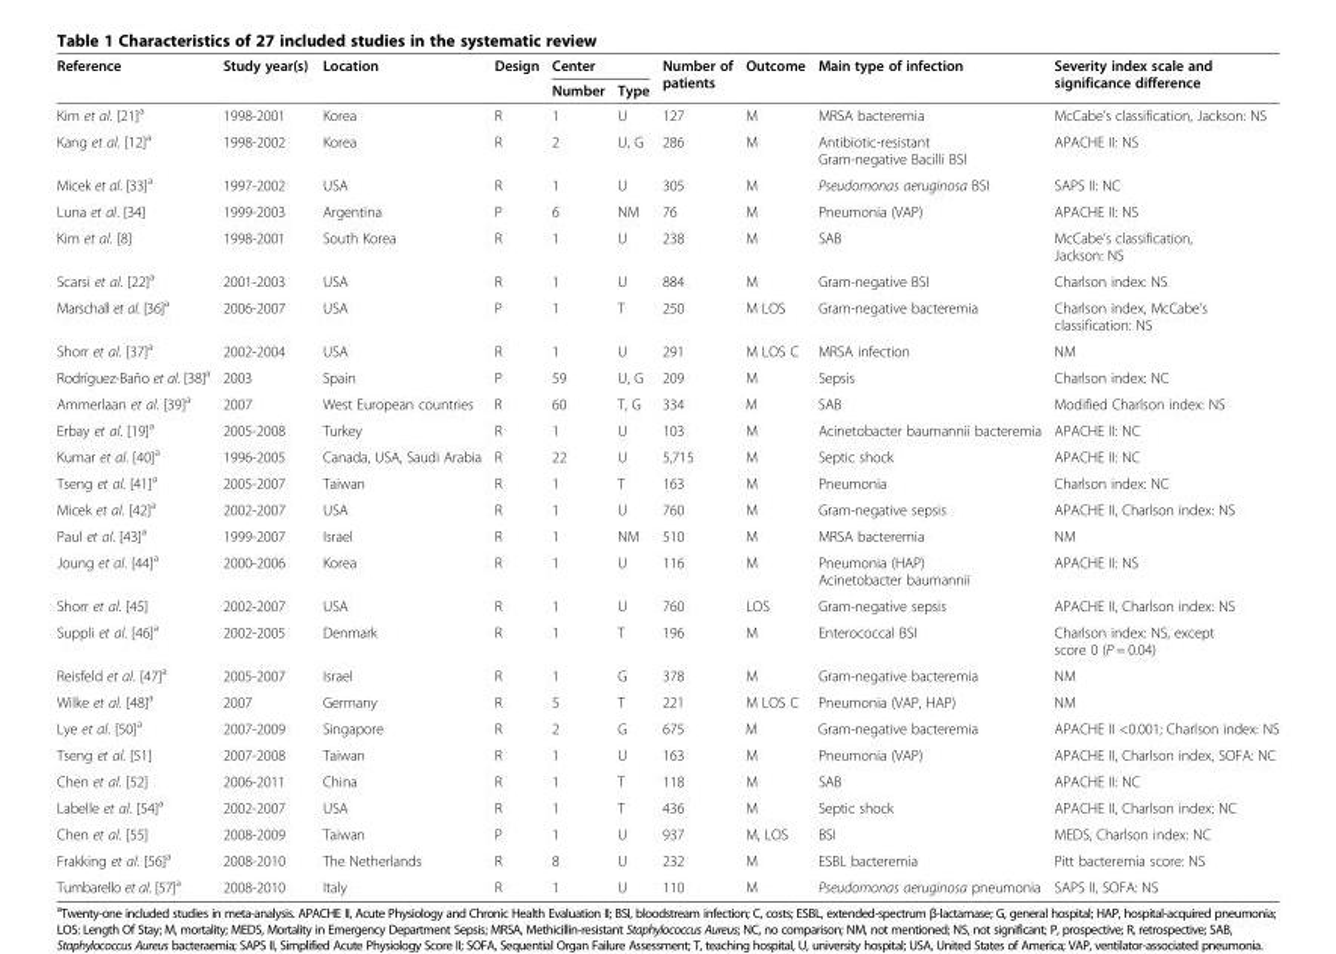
<table><thead><tr><td rowspan="2">Reference</td><td rowspan="2">Study year(s)</td><td rowspan="2">Location</td><td rowspan="2">Design</td><td colspan="2">Center</td><td rowspan="2">Number of patients</td><td rowspan="2">Outcome</td><td rowspan="2">Main type of infection</td><td rowspan="2">Severity index scale and significance difference</td></tr><tr><td>Number</td><td>Type</td></tr></thead><tbody><tr><td>Kim et al. [21]<sup>a</sup></td><td>1998-2001</td><td>Korea</td><td>R</td><td>1</td><td>U</td><td>127</td><td>M</td><td>MRSA bacteremia</td><td>McCabe’s classification, Jackson: NS</td></tr><tr><td>Kang et al. [12]<sup>a</sup></td><td>1998-2002</td><td>Korea</td><td>R</td><td>2</td><td>U, G</td><td>286</td><td>M</td><td>Antibiotic-resistant Gram-negative Bacilli BSI</td><td>APACHE II: NS</td></tr><tr><td>Micek et al. [33]<sup>a</sup></td><td>1997-2002</td><td>USA</td><td>R</td><td>1</td><td>U</td><td>305</td><td>M</td><td>Pseudomonas aeruginosa BSI</td><td>SAPS II: NC</td></tr><tr><td>Luna et al. [34]</td><td>1999-2003</td><td>Argentina</td><td>P</td><td>6</td><td>NM</td><td>76</td><td>M</td><td>Pneumonia (VAP)</td><td>APACHE II: NS</td></tr><tr><td>Kim et al. [8]</td><td>1998-2001</td><td>South Korea</td><td>R</td><td>1</td><td>U</td><td>238</td><td>M</td><td>SAB</td><td>McCabe’s classification, Jackson: NS</td></tr><tr><td>Scarsi et al. [22]<sup>a</sup></td><td>2001-2003</td><td>USA</td><td>R</td><td>1</td><td>U</td><td>884</td><td>M</td><td>Gram-negative BSI</td><td>Charlson index: NS</td></tr><tr><td>Marschall et al. [36]<sup>a</sup></td><td>2006-2007</td><td>USA</td><td>P</td><td>1</td><td>T</td><td>250</td><td>M LOS</td><td>Gram-negative bacteremia</td><td>Charlson index, McCabe’s classification: NS</td></tr><tr><td>Shorr et al. [37]<sup>a</sup></td><td>2002-2004</td><td>USA</td><td>R</td><td>1</td><td>U</td><td>291</td><td>M LOS C</td><td>MRSA infection</td><td>NM</td></tr><tr><td>Rodríguez-Baño et al. [38]<sup>a</sup></td><td>2003</td><td>Spain</td><td>P</td><td>59</td><td>U, G</td><td>209</td><td>M</td><td>Sepsis</td><td>Charlson index: NC</td></tr><tr><td>Ammerlaan et al. [39]<sup>a</sup></td><td>2007</td><td>West European countries</td><td>R</td><td>60</td><td>T, G</td><td>334</td><td>M</td><td>SAB</td><td>Modified Charlson index: NS</td></tr><tr><td>Erbay et al. [19]<sup>a</sup></td><td>2005-2008</td><td>Turkey</td><td>R</td><td>1</td><td>U</td><td>103</td><td>M</td><td>Acinetobacter baumannii bacteremia</td><td>APACHE II: NC</td></tr><tr><td>Kumar et al. [40]<sup>a</sup></td><td>1996-2005</td><td>Canada, USA, Saudi Arabia</td><td>R</td><td>22</td><td>U</td><td>5,715</td><td>M</td><td>Septic shock</td><td>APACHE II: NC</td></tr><tr><td>Tseng et al. [41]<sup>a</sup></td><td>2005-2007</td><td>Taiwan</td><td>R</td><td>1</td><td>T</td><td>163</td><td>M</td><td>Pneumonia</td><td>Charlson index: NC</td></tr><tr><td>Micek et al. [42]<sup>a</sup></td><td>2002-2007</td><td>USA</td><td>R</td><td>1</td><td>U</td><td>760</td><td>M</td><td>Gram-negative sepsis</td><td>APACHE II, Charlson index: NS</td></tr><tr><td>Paul et al. [43]<sup>a</sup></td><td>1999-2007</td><td>Israel</td><td>R</td><td>1</td><td>NM</td><td>510</td><td>M</td><td>MRSA bacteremia</td><td>NM</td></tr><tr><td>Joung et al. [44]<sup>a</sup></td><td>2000-2006</td><td>Korea</td><td>R</td><td>1</td><td>U</td><td>116</td><td>M</td><td>Pneumonia (HAP) Acinetobacter baumannii</td><td>APACHE II: NS</td></tr><tr><td>Shorr et al. [45]</td><td>2002-2007</td><td>USA</td><td>R</td><td>1</td><td>U</td><td>760</td><td>LOS</td><td>Gram-negative sepsis</td><td>APACHE II, Charlson index: NS</td></tr><tr><td>Suppli et al. [46]<sup>a</sup></td><td>2002-2005</td><td>Denmark</td><td>R</td><td>1</td><td>T</td><td>196</td><td>M</td><td>Enterococcal BSI</td><td>Charlson index: NS, except score 0 (P = 0.04)</td></tr><tr><td>Reisfeld et al. [47]<sup>a</sup></td><td>2005-2007</td><td>Israel</td><td>R</td><td>1</td><td>G</td><td>378</td><td>M</td><td>Gram-negative bacteremia</td><td>NM</td></tr><tr><td>Wilke et al. [48]<sup>a</sup></td><td>2007</td><td>Germany</td><td>R</td><td>5</td><td>T</td><td>221</td><td>M LOS C</td><td>Pneumonia (VAP, HAP)</td><td>NM</td></tr><tr><td>Lye et al. [50]<sup>a</sup></td><td>2007-2009</td><td>Singapore</td><td>R</td><td>2</td><td>G</td><td>675</td><td>M</td><td>Gram-negative bacteremia</td><td>APACHE II &lt;0.001; Charlson index: NS</td></tr><tr><td>Tseng et al. [51]</td><td>2007-2008</td><td>Taiwan</td><td>R</td><td>1</td><td>U</td><td>163</td><td>M</td><td>Pneumonia (VAP)</td><td>APACHE II, Charlson index, SOFA: NC</td></tr><tr><td>Chen et al. [52]</td><td>2006-2011</td><td>China</td><td>R</td><td>1</td><td>T</td><td>118</td><td>M</td><td>SAB</td><td>APACHE II: NC</td></tr><tr><td>Labelle et al. [54]<sup>a</sup></td><td>2002-2007</td><td>USA</td><td>R</td><td>1</td><td>T</td><td>436</td><td>M</td><td>Septic shock</td><td>APACHE II, Charlson index: NC</td></tr><tr><td>Chen et al. [55]</td><td>2008-2009</td><td>Taiwan</td><td>P</td><td>1</td><td>U</td><td>937</td><td>M, LOS</td><td>BSI</td><td>MEDS, Charlson index: NC</td></tr><tr><td>Frakking et al. [56]<sup>a</sup></td><td>2008-2010</td><td>The Netherlands</td><td>R</td><td>8</td><td>U</td><td>232</td><td>M</td><td>ESBL bacteremia</td><td>Pitt bacteremia score: NS</td></tr><tr><td>Tumbarello et al. [57]<sup>a</sup></td><td>2008-2010</td><td>Italy</td><td>R</td><td>1</td><td>U</td><td>110</td><td>M</td><td>Pseudomonas aeruginosa pneumonia</td><td>SAPS II, SOFA: NS</td></tr></tbody></table>